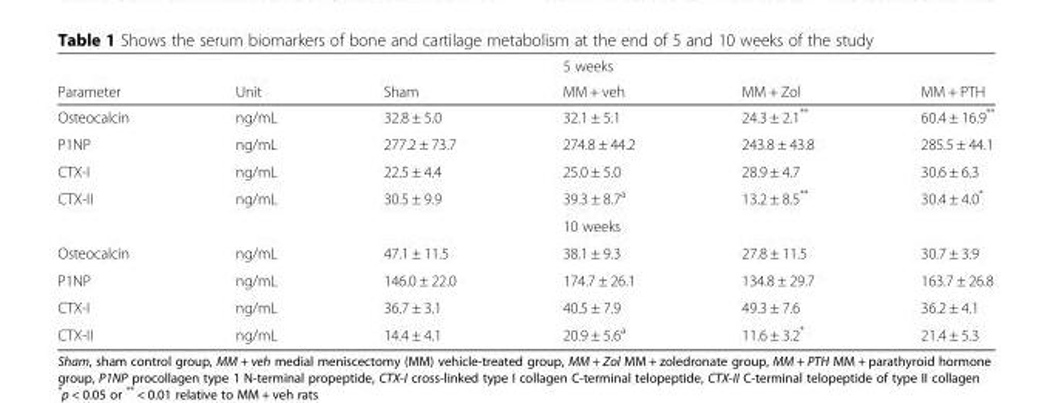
<table><thead><tr><td rowspan="2">Parameter</td><td rowspan="2">Unit</td><td rowspan="2">Sham</td><td rowspan="2">5 weeks MM + veh</td><td rowspan="2">MM + Zol</td><td rowspan="2">MM + PTH</td></tr><tr></tr></thead><tbody><tr><td>Osteocalcin</td><td>ng/mL</td><td>32.8 ± 5.0</td><td>32.1 ± 5.1</td><td>24.3 ± 2.1**</td><td>60.4 ± 16.9**</td></tr><tr><td>P1NP</td><td>ng/mL</td><td>277.2 ± 73.7</td><td>274.8 ± 44.2</td><td>243.8 ± 43.8</td><td>285.5 ± 44.1</td></tr><tr><td>CTX-I</td><td>ng/mL</td><td>22.5 ± 4.4</td><td>25.0 ± 5.0</td><td>28.9 ± 4.7</td><td>30.6 ± 6.3</td></tr><tr><td rowspan="2">CTX-II</td><td>ng/mL</td><td>30.5 ± 9.9</td><td>39.3 ± 8.7<sup>a</sup></td><td>13.2 ± 8.5**</td><td>30.4 ± 4.0*</td></tr><tr><td></td><td></td><td>10 weeks</td><td></td><td></td></tr><tr><td>Osteocalcin</td><td>ng/mL</td><td>47.1 ± 11.5</td><td>38.1 ± 9.3</td><td>27.8 ± 11.5</td><td>30.7 ± 3.9</td></tr><tr><td>P1NP</td><td>ng/mL</td><td>146.0 ± 22.0</td><td>174.7 ± 26.1</td><td>134.8 ± 29.7</td><td>163.7 ± 26.8</td></tr><tr><td>CTX-I</td><td>ng/mL</td><td>36.7 ± 3.1</td><td>40.5 ± 7.9</td><td>49.3 ± 7.6</td><td>36.2 ± 4.1</td></tr><tr><td>CTX-II</td><td>ng/mL</td><td>14.4 ± 4.1</td><td>20.9 ± 5.6<sup>a</sup></td><td>11.6 ± 3.2*</td><td>21.4 ± 5.3</td></tr></tbody></table>